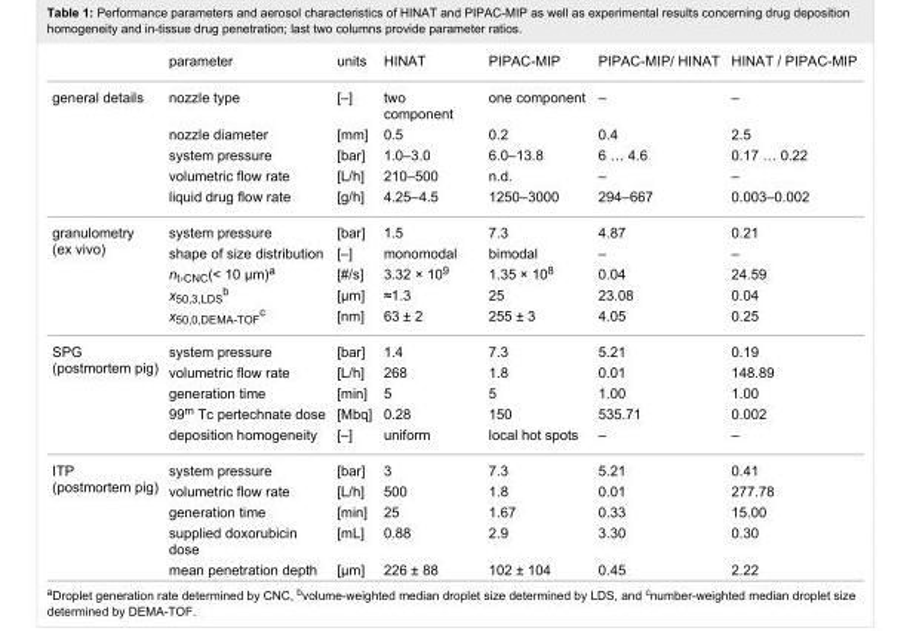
<table><thead><tr><td></td><td>parameter</td><td>units</td><td>HINAT</td><td>PIPAC-MIP</td><td>PIPAC-MIP/ HINAT</td><td>HINAT / PIPAC-MIP</td></tr></thead><tbody><tr><td rowspan="5">general details</td><td>nozzle type</td><td>[–]</td><td>two component</td><td>one component</td><td>–</td><td>–</td></tr><tr><td>nozzle diameter</td><td>[mm]</td><td>0.5</td><td>0.2</td><td>0.4</td><td>2.5</td></tr><tr><td>system pressure</td><td>[bar]</td><td>1.0–3.0</td><td>6.0–13.8</td><td>6 … 4.6</td><td>0.17 … 0.22</td></tr><tr><td>volumetric flow rate</td><td>[L/h]</td><td>210–500</td><td>n.d.</td><td>–</td><td>–</td></tr><tr><td>liquid drug flow rate</td><td>[g/h]</td><td>4.25–4.5</td><td>1250–3000</td><td>294–667</td><td>0.003–0.002</td></tr><tr><td rowspan="5">granulometry (ex vivo)</td><td>system pressure</td><td>[bar]</td><td>1.5</td><td>7.3</td><td>4.87</td><td>0.21</td></tr><tr><td>shape of size distribution</td><td>[–]</td><td>monomodal</td><td>bimodal</td><td>–</td><td>–</td></tr><tr><td>n<sub>t</sub>,<sub>CNC</sub>(&lt; 10 µm)<sup>a</sup></td><td>[#/s]</td><td>3.32 × 10<sup>9</sup></td><td>1.35 × 10<sup>8</sup></td><td>0.04</td><td>24.59</td></tr><tr><td>x<sub>50,3,LDS</sub><sup>b</sup></td><td>[µm]</td><td>≈1.3</td><td>25</td><td>23.08</td><td>0.04</td></tr><tr><td>x<sub>50,0,DEMA-TOF</sub><sup>c</sup></td><td>[nm]</td><td>63 ± 2</td><td>255 ± 3</td><td>4.05</td><td>0.25</td></tr><tr><td rowspan="5">SPG (postmortem pig)</td><td>system pressure</td><td>[bar]</td><td>1.4</td><td>7.3</td><td>5.21</td><td>0.19</td></tr><tr><td>volumetric flow rate</td><td>[L/h]</td><td>268</td><td>1.8</td><td>0.01</td><td>148.89</td></tr><tr><td>generation time</td><td>[min]</td><td>5</td><td>5</td><td>1.00</td><td>1.00</td></tr><tr><td>99<sup>m</sup> Tc pertechnate dose</td><td>[Mbq]</td><td>0.28</td><td>150</td><td>535.71</td><td>0.002</td></tr><tr><td>deposition homogeneity</td><td>[–]</td><td>uniform</td><td>local hot spots</td><td>–</td><td>–</td></tr><tr><td rowspan="5">ITP (postmortem pig)</td><td>system pressure</td><td>[bar]</td><td>3</td><td>7.3</td><td>5.21</td><td>0.41</td></tr><tr><td>volumetric flow rate</td><td>[L/h]</td><td>500</td><td>1.8</td><td>0.01</td><td>277.78</td></tr><tr><td>generation time</td><td>[min]</td><td>25</td><td>1.67</td><td>0.33</td><td>15.00</td></tr><tr><td>supplied doxorubicin dose</td><td>[mL]</td><td>0.88</td><td>2.9</td><td>3.30</td><td>0.30</td></tr><tr><td>mean penetration depth</td><td>[µm]</td><td>226 ± 88</td><td>102 ± 104</td><td>0.45</td><td>2.22</td></tr></tbody></table>